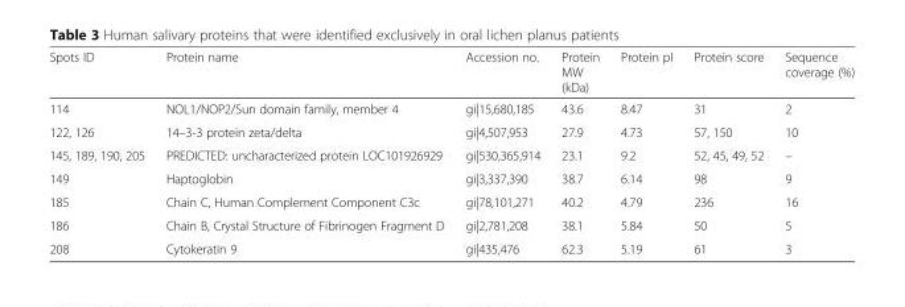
<table><thead><tr><td>Spots ID</td><td>Protein name</td><td>Accession no.</td><td>Protein MW (kDa)</td><td>Protein pI</td><td>Protein score</td><td>Sequence coverage (%)</td></tr></thead><tbody><tr><td>114</td><td>NOL1/NOP2/Sun domain family, member 4</td><td>gi|15,680,185</td><td>43.6</td><td>8.47</td><td>31</td><td>2</td></tr><tr><td>122, 126</td><td>14–3-3 protein zeta/delta</td><td>gi|4,507,953</td><td>27.9</td><td>4.73</td><td>57, 150</td><td>10</td></tr><tr><td>145, 189, 190, 205</td><td>PREDICTED: uncharacterized protein LOC101926929</td><td>gi|530,365,914</td><td>23.1</td><td>9.2</td><td>52, 45, 49, 52</td><td>–</td></tr><tr><td>149</td><td>Haptoglobin</td><td>gi|3,337,390</td><td>38.7</td><td>6.14</td><td>98</td><td>9</td></tr><tr><td>185</td><td>Chain C, Human Complement Component C3c</td><td>gi|78,101,271</td><td>40.2</td><td>4.79</td><td>236</td><td>16</td></tr><tr><td>186</td><td>Chain B, Crystal Structure of Fibrinogen Fragment D</td><td>gi|2,781,208</td><td>38.1</td><td>5.84</td><td>50</td><td>5</td></tr><tr><td>208</td><td>Cytokeratin 9</td><td>gi|435,476</td><td>62.3</td><td>5.19</td><td>61</td><td>3</td></tr></tbody></table>